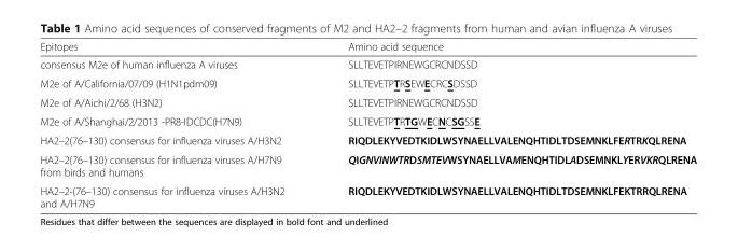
<table><thead><tr><td>Epitopes</td><td>Amino acid sequence</td></tr></thead><tbody><tr><td>consensus M2e of human influenza A viruses</td><td>SLLTEVETPIRNEWGCRCNDSSD</td></tr><tr><td>M2e of A/California/07/09 (H1N1pdm09)</td><td>SLLTEVETPTRSEWECRCSDSSD</td></tr><tr><td>M2e of A/Aichi/2/68 (H3N2)</td><td>SLLTEVETPIRNEWGCRCNDSSD</td></tr><tr><td>M2e of A/Shanghai/2/2013 -PR8-IDCDC(H7N9)</td><td>SLLTEVETPTRTGWECNCSGSSE</td></tr><tr><td>HA2–2(76–130) consensus for influenza viruses A/H3N2</td><td>RIQDLEKYVEDTKIDLWSYNAELLVALENQHTIDLTDSEMNKLFERTRKQLRENA</td></tr><tr><td>HA2–2(76–130) consensus for influenza viruses A/H7N9 from birds and humans</td><td>QIGNVINWTRDSMTEVWSYNAELLVAMENQHTIDLADSEMNKLYERVKRQLRENA</td></tr><tr><td>HA2–2-(76–130) consensus for influenza viruses A/H3N2 and A/H7N9</td><td>RIQDLEKYVEDTKIDLWSYNAELLVALENQHTIDLTDSEMNKLFEKTRRQLRENA</td></tr></tbody></table>